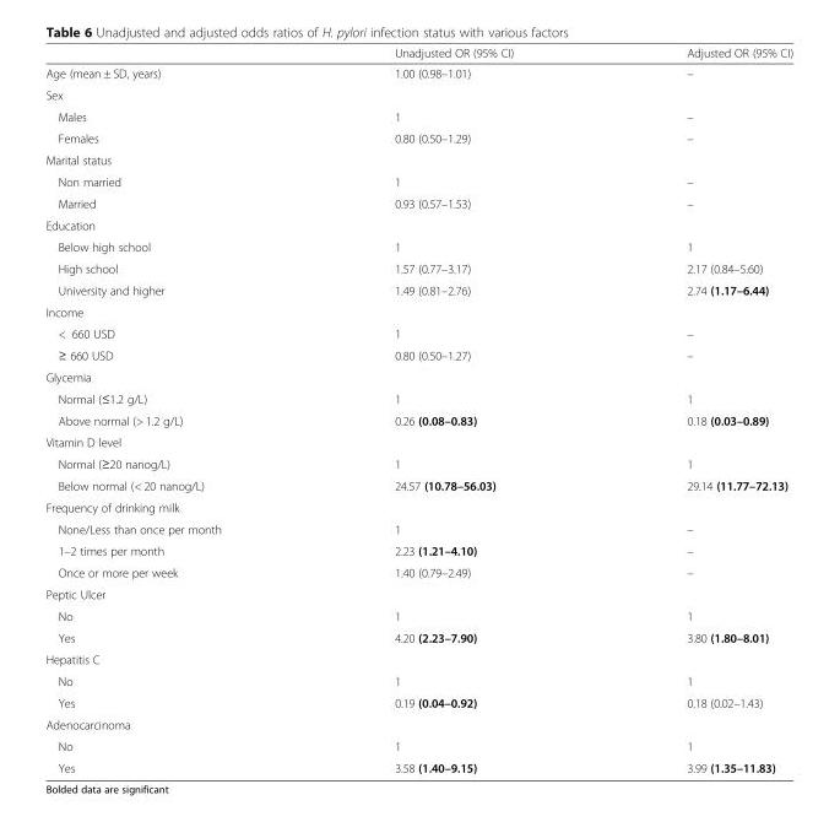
<table><thead><tr><td></td><td>Unadjusted OR (95% CI)</td><td>Adjusted OR (95% CI)</td></tr></thead><tbody><tr><td>Age (mean ± SD, years)</td><td>1.00 (0.98–1.01)</td><td>–</td></tr><tr><td colspan="3">Sex</td></tr><tr><td>Males</td><td>1</td><td>–</td></tr><tr><td>Females</td><td>0.80 (0.50–1.29)</td><td>–</td></tr><tr><td colspan="3">Marital status</td></tr><tr><td>Non married</td><td>1</td><td>–</td></tr><tr><td>Married</td><td>0.93 (0.57–1.53)</td><td>–</td></tr><tr><td colspan="3">Education</td></tr><tr><td>Below high school</td><td>1</td><td>1</td></tr><tr><td>High school</td><td>1.57 (0.77–3.17)</td><td>2.17 (0.84–5.60)</td></tr><tr><td>University and higher</td><td>1.49 (0.81–2.76)</td><td>2.74 (1.17–6.44)</td></tr><tr><td colspan="3">Income</td></tr><tr><td>&lt; 660 USD</td><td>1</td><td>–</td></tr><tr><td>≥ 660 USD</td><td>0.80 (0.50–1.27)</td><td>–</td></tr><tr><td colspan="3">Glycemia</td></tr><tr><td>Normal (≤1.2 g/L)</td><td>1</td><td>1</td></tr><tr><td>Above normal (&gt; 1.2 g/L)</td><td>0.26 (0.08–0.83)</td><td>0.18 (0.03–0.89)</td></tr><tr><td colspan="3">Vitamin D level</td></tr><tr><td>Normal (≥20 nanog/L)</td><td>1</td><td>1</td></tr><tr><td>Below normal (&lt; 20 nanog/L)</td><td>24.57 (10.78–56.03)</td><td>29.14 (11.77–72.13)</td></tr><tr><td colspan="3">Frequency of drinking milk</td></tr><tr><td>None/Less than once per month</td><td>1</td><td>–</td></tr><tr><td>1–2 times per month</td><td>2.23 (1.21–4.10)</td><td>–</td></tr><tr><td>Once or more per week</td><td>1.40 (0.79–2.49)</td><td>–</td></tr><tr><td colspan="3">Peptic Ulcer</td></tr><tr><td>No</td><td>1</td><td>1</td></tr><tr><td>Yes</td><td>4.20 (2.23–7.90)</td><td>3.80 (1.80–8.01)</td></tr><tr><td colspan="3">Hepatitis C</td></tr><tr><td>No</td><td>1</td><td>1</td></tr><tr><td>Yes</td><td>0.19 (0.04–0.92)</td><td>0.18 (0.02–1.43)</td></tr><tr><td colspan="3">Adenocarcinoma</td></tr><tr><td>No</td><td>1</td><td>1</td></tr><tr><td>Yes</td><td>3.58 (1.40–9.15)</td><td>3.99 (1.35–11.83)</td></tr></tbody></table>